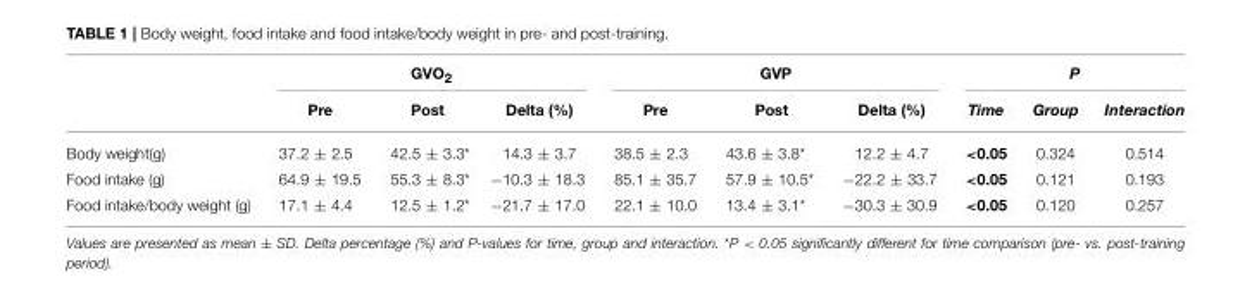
<table><thead><tr><td rowspan="2"></td><td colspan="3">GVO<sub>2</sub></td><td colspan="3">GVP</td><td colspan="3">P</td></tr><tr><td>Pre</td><td>Post</td><td>Delta (%)</td><td>Pre</td><td>Post</td><td>Delta (%)</td><td>Time</td><td>Group</td><td>Interaction</td></tr></thead><tbody><tr><td>Body weight(g)</td><td>37.2 ± 2.5</td><td>42.5 ± 3.3*</td><td>14.3 ± 3.7</td><td>38.5 ± 2.3</td><td>43.6 ± 3.8*</td><td>12.2 ± 4.7</td><td>&lt;0.05</td><td>0.324</td><td>0.514</td></tr><tr><td>Food intake (g)</td><td>64.9 ± 19.5</td><td>55.3 ± 8.3*</td><td>−10.3 ± 18.3</td><td>85.1 ± 35.7</td><td>57.9 ± 10.5*</td><td>−22.2 ± 33.7</td><td>&lt;0.05</td><td>0.121</td><td>0.193</td></tr><tr><td>Food intake/body weight (g)</td><td>17.1 ± 4.4</td><td>12.5 ± 1.2*</td><td>−21.7 ± 17.0</td><td>22.1 ± 10.0</td><td>13.4 ± 3.1*</td><td>−30.3 ± 30.9</td><td>&lt;0.05</td><td>0.120</td><td>0.257</td></tr></tbody></table>